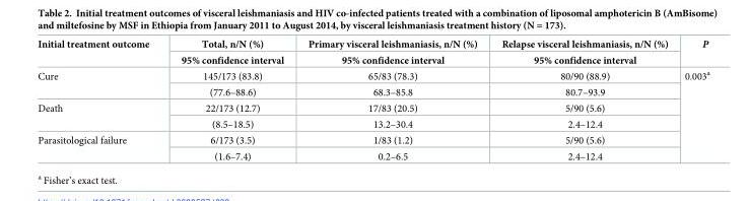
<table><thead><tr><td rowspan="2">Initial treatment outcome</td><td rowspan="2">Total, n/N (%) 95% confidence interval</td><td rowspan="2">Primary visceral leishmaniasis, n/N (%) 95% confidence interval</td><td rowspan="2">Relapse visceral leishmaniasis, n/N (%) 95% confidence interval</td><td rowspan="2">P</td></tr><tr></tr></thead><tbody><tr><td rowspan="2">Cure</td><td>145/173 (83.8)</td><td>65/83 (78.3)</td><td>80/90 (88.9)</td><td rowspan="6">0.003<sup>a</sup></td></tr><tr><td>(77.6–88.6)</td><td>68.3–85.8</td><td>80.7–93.9</td></tr><tr><td rowspan="2">Death</td><td>22/173 (12.7)</td><td>17/83 (20.5)</td><td>5/90 (5.6)</td></tr><tr><td>(8.5–18.5)</td><td>13.2–30.4</td><td>2.4–12.4</td></tr><tr><td rowspan="2">Parasitological failure</td><td>6/173 (3.5)</td><td>1/83 (1.2)</td><td>5/90 (5.6)</td></tr><tr><td>(1.6–7.4)</td><td>0.2–6.5</td><td>2.4–12.4</td></tr></tbody></table>